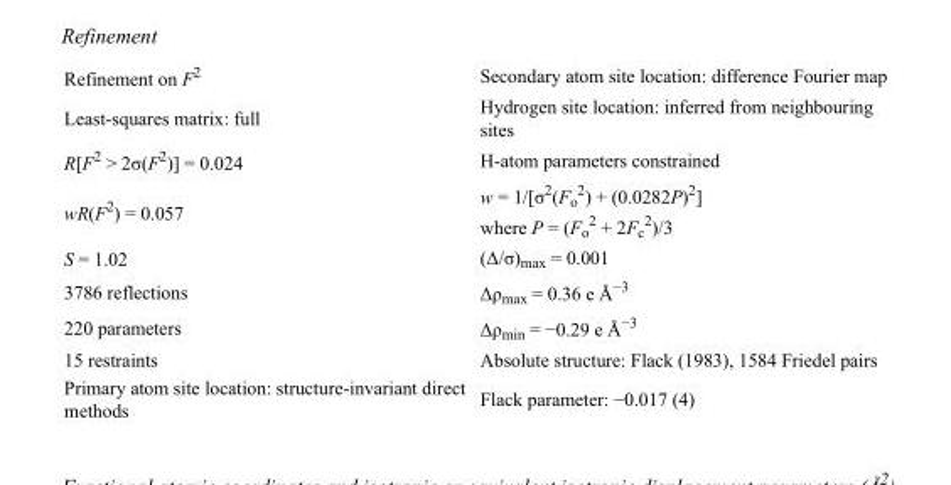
<table><tbody><tr><td>Refinement on F<sup>2</sup></td><td>Secondary atom site location: difference Fourier map</td></tr><tr><td>Least-squares matrix: full</td><td>Hydrogen site location: inferred from neighbouring sites</td></tr><tr><td>R[F<sup>2</sup> &gt; 2σ(F<sup>2</sup>)] = 0.024</td><td>H-atom parameters constrained</td></tr><tr><td>wR(F<sup>2</sup>) = 0.057</td><td>w = 1/[σ<sup>2</sup>(F<sub>o</sub> <sup>2</sup>) + (0.0282P)<sup>2</sup>] where P = (F<sub>o</sub> <sup>2</sup> + 2F<sub>c</sub> <sup>2</sup>)/3</td></tr><tr><td>S = 1.02</td><td>(Δ/σ)<sub>max</sub> = 0.001</td></tr><tr><td>3786 reflections</td><td>Δρ<sub>max</sub> = 0.36 e Å<sup>−3</sup></td></tr><tr><td>220 parameters</td><td>Δρ<sub>min</sub> = −0.29 e Å<sup>−3</sup></td></tr><tr><td>15 restraints</td><td>Absolute structure: Flack (1983), 1584 Friedel pairs</td></tr><tr><td>Primary atom site location: structure-invariant direct methods</td><td>Flack parameter: −0.017 (4)</td></tr></tbody></table>